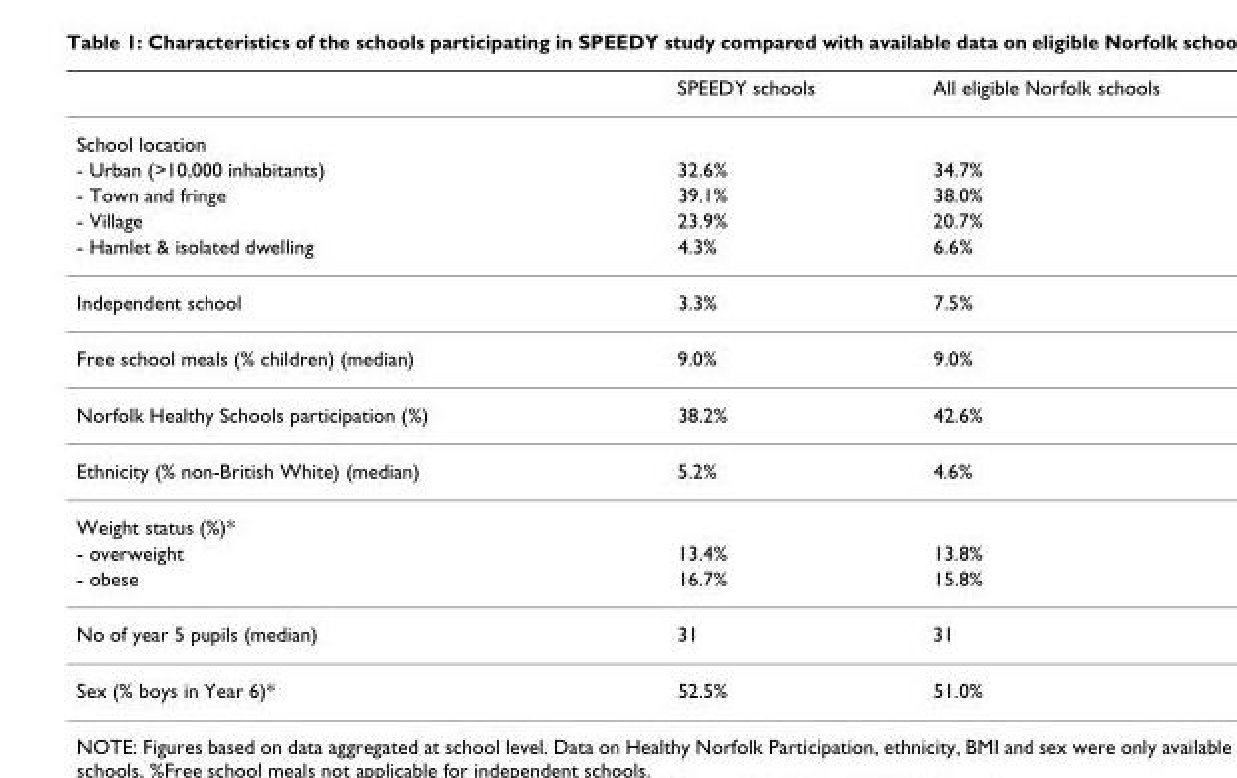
<table><thead><tr><td></td><td>SPEEDY schools</td><td>All eligible Norfolk schools</td></tr></thead><tbody><tr><td colspan="3">School location</td></tr><tr><td>- Urban (&gt;10,000 inhabitants)</td><td>32.6%</td><td>34.7%</td></tr><tr><td>- Town and fringe</td><td>39.1%</td><td>38.0%</td></tr><tr><td>- Village</td><td>23.9%</td><td>20.7%</td></tr><tr><td>- Hamlet &amp; isolated dwelling</td><td>4.3%</td><td>6.6%</td></tr><tr><td>Independent school</td><td>3.3%</td><td>7.5%</td></tr><tr><td>Free school meals (% children) (median)</td><td>9.0%</td><td>9.0%</td></tr><tr><td>Norfolk Healthy Schools participation (%)</td><td>38.2%</td><td>42.6%</td></tr><tr><td>Ethnicity (% non-British White) (median)</td><td>5.2%</td><td>4.6%</td></tr><tr><td colspan="3">Weight status (%)*</td></tr><tr><td>- overweight</td><td>13.4%</td><td>13.8%</td></tr><tr><td>- obese</td><td>16.7%</td><td>15.8%</td></tr><tr><td>No of year 5 pupils (median)</td><td>31</td><td>31</td></tr><tr><td>Sex (% boys in Year 6)*</td><td>52.5%</td><td>51.0%</td></tr></tbody></table>